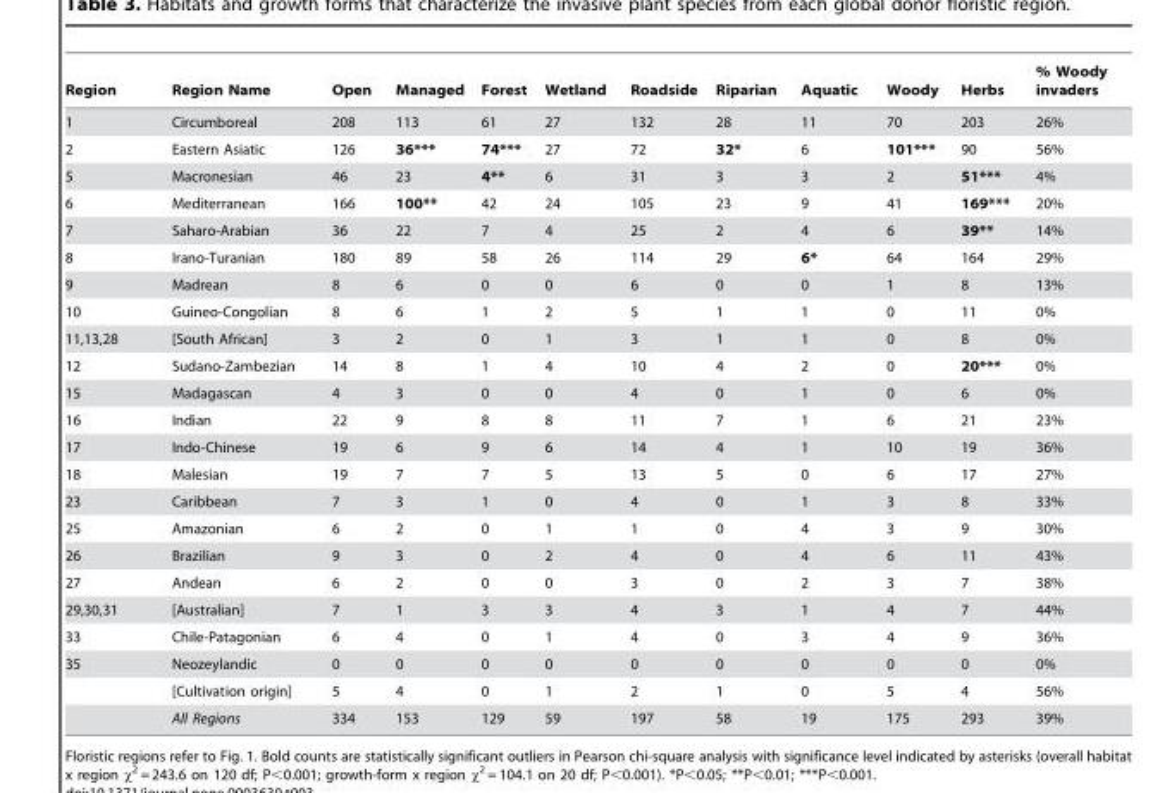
<table><thead><tr><td>Region</td><td>Region Name</td><td>Open</td><td>Managed</td><td>Forest</td><td>Wetland</td><td>Roadside</td><td>Riparian</td><td>Aquatic</td><td>Woody</td><td>Herbs</td><td>% Woody invaders</td></tr></thead><tbody><tr><td>1</td><td>Circumboreal</td><td>208</td><td>113</td><td>61</td><td>27</td><td>132</td><td>28</td><td>11</td><td>70</td><td>203</td><td>26%</td></tr><tr><td>2</td><td>Eastern Asiatic</td><td>126</td><td>36***</td><td>74***</td><td>27</td><td>72</td><td>32*</td><td>6</td><td>101***</td><td>90</td><td>56%</td></tr><tr><td>5</td><td>Macronesian</td><td>46</td><td>23</td><td>4**</td><td>6</td><td>31</td><td>3</td><td>3</td><td>2</td><td>51***</td><td>4%</td></tr><tr><td>6</td><td>Mediterranean</td><td>166</td><td>100**</td><td>42</td><td>24</td><td>105</td><td>23</td><td>9</td><td>41</td><td>169***</td><td>20%</td></tr><tr><td>7</td><td>Saharo-Arabian</td><td>36</td><td>22</td><td>7</td><td>4</td><td>25</td><td>2</td><td>4</td><td>6</td><td>39**</td><td>14%</td></tr><tr><td>8</td><td>Irano-Turanian</td><td>180</td><td>89</td><td>58</td><td>26</td><td>114</td><td>29</td><td>6*</td><td>64</td><td>164</td><td>29%</td></tr><tr><td>9</td><td>Madrean</td><td>8</td><td>6</td><td>0</td><td>0</td><td>6</td><td>0</td><td>0</td><td>1</td><td>8</td><td>13%</td></tr><tr><td>10</td><td>Guineo-Congolian</td><td>8</td><td>6</td><td>1</td><td>2</td><td>5</td><td>1</td><td>1</td><td>0</td><td>11</td><td>0%</td></tr><tr><td>11,13,28</td><td>[South African]</td><td>3</td><td>2</td><td>0</td><td>1</td><td>3</td><td>1</td><td>1</td><td>0</td><td>8</td><td>0%</td></tr><tr><td>12</td><td>Sudano-Zambezian</td><td>14</td><td>8</td><td>1</td><td>4</td><td>10</td><td>4</td><td>2</td><td>0</td><td>20***</td><td>0%</td></tr><tr><td>15</td><td>Madagascan</td><td>4</td><td>3</td><td>0</td><td>0</td><td>4</td><td>0</td><td>1</td><td>0</td><td>6</td><td>0%</td></tr><tr><td>16</td><td>Indian</td><td>22</td><td>9</td><td>8</td><td>8</td><td>11</td><td>7</td><td>1</td><td>6</td><td>21</td><td>23%</td></tr><tr><td>17</td><td>Indo-Chinese</td><td>19</td><td>6</td><td>9</td><td>6</td><td>14</td><td>4</td><td>1</td><td>10</td><td>19</td><td>36%</td></tr><tr><td>18</td><td>Malesian</td><td>19</td><td>7</td><td>7</td><td>5</td><td>13</td><td>5</td><td>0</td><td>6</td><td>17</td><td>27%</td></tr><tr><td>23</td><td>Caribbean</td><td>7</td><td>3</td><td>1</td><td>0</td><td>4</td><td>0</td><td>1</td><td>3</td><td>8</td><td>33%</td></tr><tr><td>25</td><td>Amazonian</td><td>6</td><td>2</td><td>0</td><td>1</td><td>1</td><td>0</td><td>4</td><td>3</td><td>9</td><td>30%</td></tr><tr><td>26</td><td>Brazilian</td><td>9</td><td>3</td><td>0</td><td>2</td><td>4</td><td>0</td><td>4</td><td>6</td><td>11</td><td>43%</td></tr><tr><td>27</td><td>Andean</td><td>6</td><td>2</td><td>0</td><td>0</td><td>3</td><td>0</td><td>2</td><td>3</td><td>7</td><td>38%</td></tr><tr><td>29,30,31</td><td>[Australian]</td><td>7</td><td>1</td><td>3</td><td>3</td><td>4</td><td>3</td><td>1</td><td>4</td><td>7</td><td>44%</td></tr><tr><td>33</td><td>Chile-Patagonian</td><td>6</td><td>4</td><td>0</td><td>1</td><td>4</td><td>0</td><td>3</td><td>4</td><td>9</td><td>36%</td></tr><tr><td rowspan="3">35</td><td>Neozeylandic</td><td>0</td><td>0</td><td>0</td><td>0</td><td>0</td><td>0</td><td>0</td><td>0</td><td>0</td><td>0%</td></tr><tr><td>[Cultivation origin]</td><td>5</td><td>4</td><td>0</td><td>1</td><td>2</td><td>1</td><td>0</td><td>5</td><td>4</td><td>56%</td></tr><tr><td>All Regions</td><td>334</td><td>153</td><td>129</td><td>59</td><td>197</td><td>58</td><td>19</td><td>175</td><td>293</td><td>39%</td></tr></tbody></table>